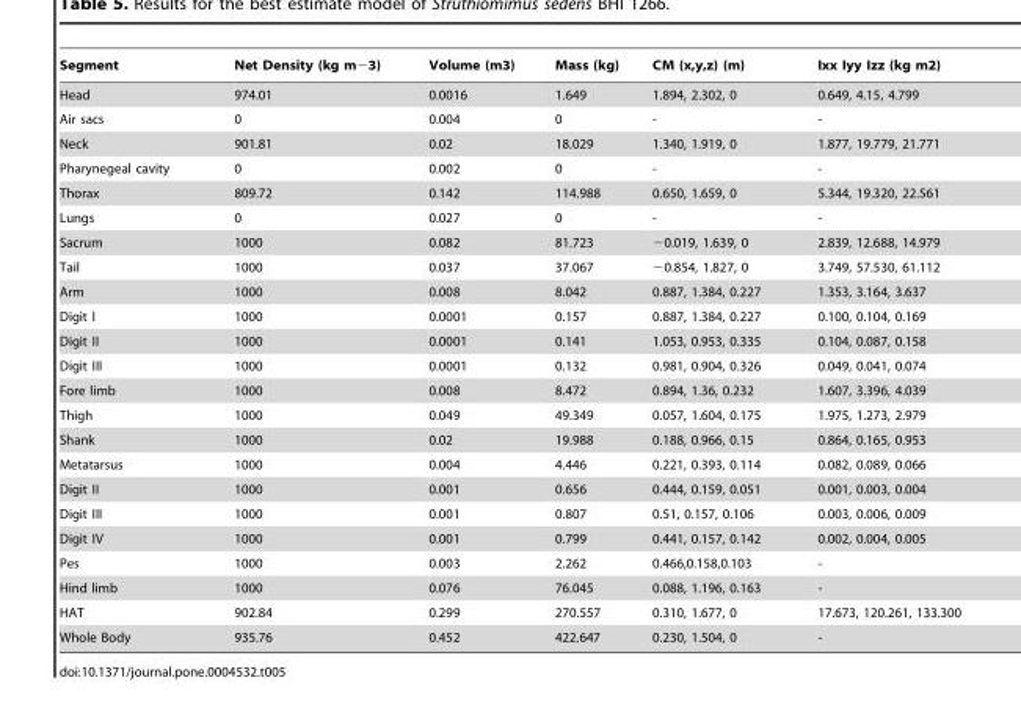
<table><thead><tr><td>Segment</td><td>Net Density (kg m−3)</td><td>Volume (m3)</td><td>Mass (kg)</td><td>CM (x,y,z) (m)</td><td>Ixx Iyy Izz (kg m2)</td></tr></thead><tbody><tr><td>Head</td><td>974.01</td><td>0.0016</td><td>1.649</td><td>1.894, 2.302, 0</td><td>0.649, 4.15, 4.799</td></tr><tr><td>Air sacs</td><td>0</td><td>0.004</td><td>0</td><td>-</td><td>-</td></tr><tr><td>Neck</td><td>901.81</td><td>0.02</td><td>18.029</td><td>1.340, 1.919, 0</td><td>1.877, 19.779, 21.771</td></tr><tr><td>Pharynegeal cavity</td><td>0</td><td>0.002</td><td>0</td><td>-</td><td>-</td></tr><tr><td>Thorax</td><td>809.72</td><td>0.142</td><td>114.988</td><td>0.650, 1.659, 0</td><td>5.344, 19.320, 22.561</td></tr><tr><td>Lungs</td><td>0</td><td>0.027</td><td>0</td><td>-</td><td>-</td></tr><tr><td>Sacrum</td><td>1000</td><td>0.082</td><td>81.723</td><td>−0.019, 1.639, 0</td><td>2.839, 12.688, 14.979</td></tr><tr><td>Tail</td><td>1000</td><td>0.037</td><td>37.067</td><td>−0.854, 1.827, 0</td><td>3.749, 57.530, 61.112</td></tr><tr><td>Arm</td><td>1000</td><td>0.008</td><td>8.042</td><td>0.887, 1.384, 0.227</td><td>1.353, 3.164, 3.637</td></tr><tr><td>Digit I</td><td>1000</td><td>0.0001</td><td>0.157</td><td>0.887, 1.384, 0.227</td><td>0.100, 0.104, 0.169</td></tr><tr><td>Digit II</td><td>1000</td><td>0.0001</td><td>0.141</td><td>1.053, 0.953, 0.335</td><td>0.104, 0.087, 0.158</td></tr><tr><td>Digit III</td><td>1000</td><td>0.0001</td><td>0.132</td><td>0.981, 0.904, 0.326</td><td>0.049, 0.041, 0.074</td></tr><tr><td>Fore limb</td><td>1000</td><td>0.008</td><td>8.472</td><td>0.894, 1.36, 0.232</td><td>1.607, 3.396, 4.039</td></tr><tr><td>Thigh</td><td>1000</td><td>0.049</td><td>49.349</td><td>0.057, 1.604, 0.175</td><td>1.975, 1.273, 2.979</td></tr><tr><td>Shank</td><td>1000</td><td>0.02</td><td>19.988</td><td>0.188, 0.966, 0.15</td><td>0.864, 0.165, 0.953</td></tr><tr><td>Metatarsus</td><td>1000</td><td>0.004</td><td>4.446</td><td>0.221, 0.393, 0.114</td><td>0.082, 0.089, 0.066</td></tr><tr><td>Digit II</td><td>1000</td><td>0.001</td><td>0.656</td><td>0.444, 0.159, 0.051</td><td>0.001, 0.003, 0.004</td></tr><tr><td>Digit III</td><td>1000</td><td>0.001</td><td>0.807</td><td>0.51, 0.157, 0.106</td><td>0.003, 0.006, 0.009</td></tr><tr><td>Digit IV</td><td>1000</td><td>0.001</td><td>0.799</td><td>0.441, 0.157, 0.142</td><td>0.002, 0.004, 0.005</td></tr><tr><td>Pes</td><td>1000</td><td>0.003</td><td>2.262</td><td>0.466,0.158,0.103</td><td>-</td></tr><tr><td>Hind limb</td><td>1000</td><td>0.076</td><td>76.045</td><td>0.088, 1.196, 0.163</td><td>-</td></tr><tr><td>HAT</td><td>902.84</td><td>0.299</td><td>270.557</td><td>0.310, 1.677, 0</td><td>17.673, 120.261, 133.300</td></tr><tr><td>Whole Body</td><td>935.76</td><td>0.452</td><td>422.647</td><td>0.230, 1.504, 0</td><td>-</td></tr></tbody></table>